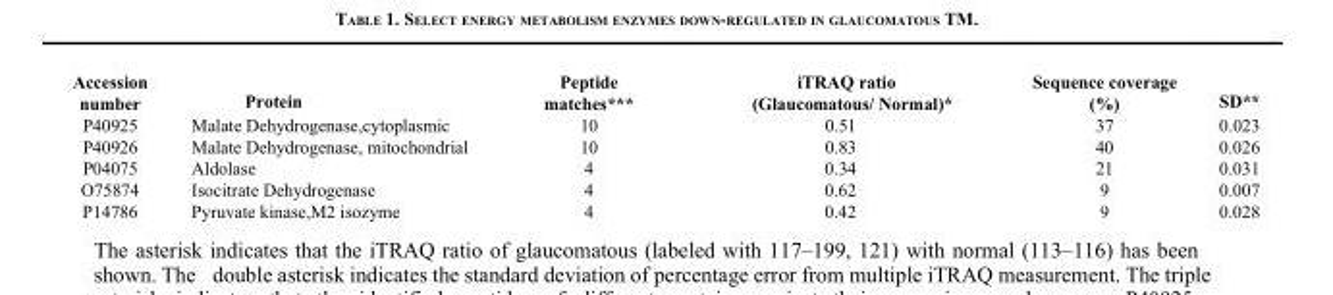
<table><thead><tr><td>Accession number</td><td>Protein</td><td>Peptide matches***</td><td>iTRAQ ratio (Glaucomatous/ Normal)*</td><td>Sequence coverage (%)</td><td>SD**</td></tr></thead><tbody><tr><td>P40925</td><td>Malate Dehydrogenase,cytoplasmic</td><td>10</td><td>0.51</td><td>37</td><td>0.023</td></tr><tr><td>P40926</td><td>Malate Dehydrogenase, mitochondrial</td><td>10</td><td>0.83</td><td>40</td><td>0.026</td></tr><tr><td>P04075</td><td>Aldolase</td><td>4</td><td>0.34</td><td>21</td><td>0.031</td></tr><tr><td>O75874</td><td>Isocitrate Dehydrogenase</td><td>4</td><td>0.62</td><td>9</td><td>0.007</td></tr><tr><td>P14786</td><td>Pyruvate kinase,M2 isozyme</td><td>4</td><td>0.42</td><td>9</td><td>0.028</td></tr></tbody></table>